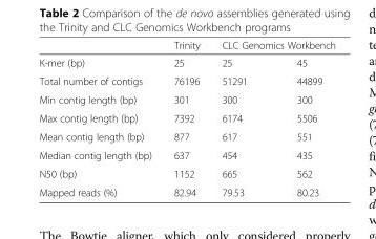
<table><thead><tr><td rowspan="2">K-mer (bp)</td><td rowspan="2">Trinity 25</td><td colspan="2">CLC Genomics Workbench</td></tr><tr><td>25</td><td>45</td></tr></thead><tbody><tr><td>Total number of contigs</td><td>76196</td><td>51291</td><td>44899</td></tr><tr><td>Min contig length (bp)</td><td>301</td><td>300</td><td>300</td></tr><tr><td>Max contig length (bp)</td><td>7392</td><td>6174</td><td>5506</td></tr><tr><td>Mean contig length (bp)</td><td>877</td><td>617</td><td>551</td></tr><tr><td>Median contig length (bp)</td><td>637</td><td>454</td><td>435</td></tr><tr><td>N50 (bp)</td><td>1152</td><td>665</td><td>562</td></tr><tr><td>Mapped reads (%)</td><td>82.94</td><td>79.53</td><td>80.23</td></tr></tbody></table>